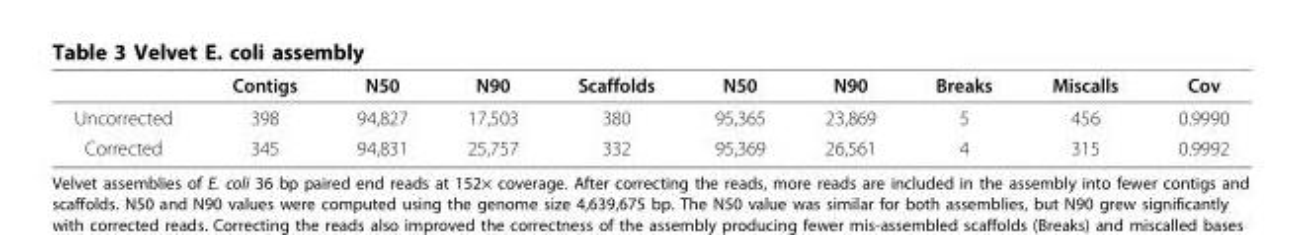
<table><thead><tr><td></td><td>Contigs</td><td>N50</td><td>N90</td><td>Scaffolds</td><td>N50</td><td>N90</td><td>Breaks</td><td>Miscalls</td><td>Cov</td></tr></thead><tbody><tr><td>Uncorrected</td><td>398</td><td>94,827</td><td>17,503</td><td>380</td><td>95,365</td><td>23,869</td><td>5</td><td>456</td><td>0.9990</td></tr><tr><td>Corrected</td><td>345</td><td>94,831</td><td>25,757</td><td>332</td><td>95,369</td><td>26,561</td><td>4</td><td>315</td><td>0.9992</td></tr></tbody></table>